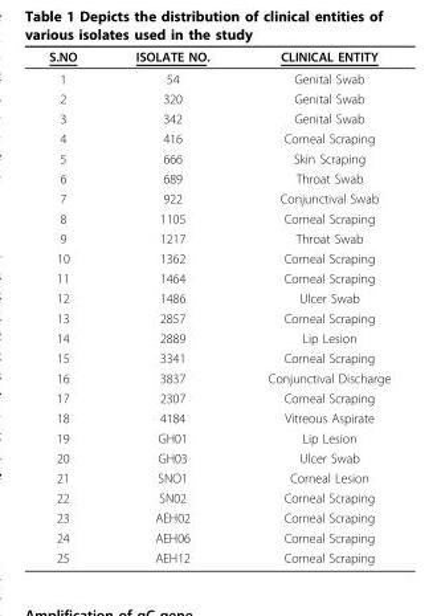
<table><thead><tr><td>S.NO</td><td>ISOLATE NO.</td><td>CLINICAL ENTITY</td></tr></thead><tbody><tr><td>1</td><td>54</td><td>Genital Swab</td></tr><tr><td>2</td><td>320</td><td>Genital Swab</td></tr><tr><td>3</td><td>342</td><td>Genital Swab</td></tr><tr><td>4</td><td>416</td><td>Corneal Scraping</td></tr><tr><td>5</td><td>666</td><td>Skin Scraping</td></tr><tr><td>6</td><td>689</td><td>Throat Swab</td></tr><tr><td>7</td><td>922</td><td>Conjunctival Swab</td></tr><tr><td>8</td><td>1105</td><td>Corneal Scraping</td></tr><tr><td>9</td><td>1217</td><td>Throat Swab</td></tr><tr><td>10</td><td>1362</td><td>Corneal Scraping</td></tr><tr><td>11</td><td>1464</td><td>Corneal Scraping</td></tr><tr><td>12</td><td>1486</td><td>Ulcer Swab</td></tr><tr><td>13</td><td>2857</td><td>Corneal Scraping</td></tr><tr><td>14</td><td>2889</td><td>Lip Lesion</td></tr><tr><td>15</td><td>3341</td><td>Corneal Scraping</td></tr><tr><td>16</td><td>3837</td><td>Conjunctival Discharge</td></tr><tr><td>17</td><td>2307</td><td>Corneal Scraping</td></tr><tr><td>18</td><td>4184</td><td>Vitreous Aspirate</td></tr><tr><td>19</td><td>GH01</td><td>Lip Lesion</td></tr><tr><td>20</td><td>GH03</td><td>Ulcer Swab</td></tr><tr><td>21</td><td>SNO1</td><td>Corneal Lesion</td></tr><tr><td>22</td><td>SN02</td><td>Corneal Scraping</td></tr><tr><td>23</td><td>AEH02</td><td>Corneal Scraping</td></tr><tr><td>24</td><td>AEH06</td><td>Corneal Scraping</td></tr><tr><td>25</td><td>AEH12</td><td>Corneal Scraping</td></tr></tbody></table>